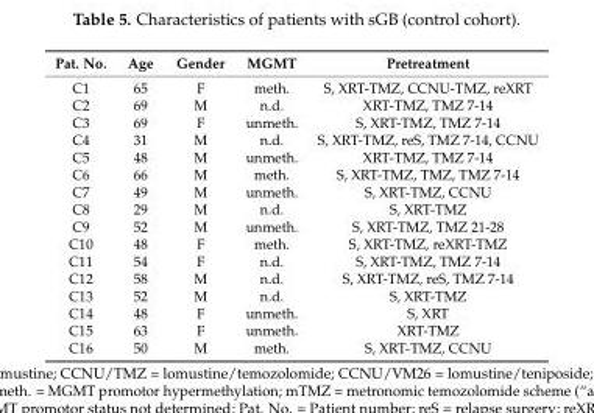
<table><thead><tr><td>Pat. No.</td><td>Age</td><td>Gender</td><td>MGMT</td><td>Pretreatment</td></tr></thead><tbody><tr><td>C1</td><td>65</td><td>F</td><td>meth.</td><td>S, XRT-TMZ, CCNU-TMZ, reXRT</td></tr><tr><td>C2</td><td>69</td><td>M</td><td>n.d.</td><td>XRT-TMZ, TMZ 7-14</td></tr><tr><td>C3</td><td>69</td><td>F</td><td>unmeth.</td><td>S, XRT-TMZ, TMZ 7-14</td></tr><tr><td>C4</td><td>31</td><td>M</td><td>n.d.</td><td>S, XRT-TMZ, reS, TMZ 7-14, CCNU</td></tr><tr><td>C5</td><td>48</td><td>M</td><td>unmeth.</td><td>XRT-TMZ, TMZ 7-14</td></tr><tr><td>C6</td><td>66</td><td>M</td><td>meth.</td><td>S, XRT-TMZ, TMZ, TMZ 7-14</td></tr><tr><td>C7</td><td>49</td><td>M</td><td>unmeth.</td><td>S, XRT-TMZ, CCNU</td></tr><tr><td>C8</td><td>29</td><td>M</td><td>n.d.</td><td>S, XRT-TMZ</td></tr><tr><td>C9</td><td>52</td><td>M</td><td>unmeth.</td><td>S, XRT-TMZ, TMZ 21-28</td></tr><tr><td>C10</td><td>48</td><td>F</td><td>meth.</td><td>S, XRT-TMZ, reXRT-TMZ</td></tr><tr><td>C11</td><td>54</td><td>F</td><td>n.d.</td><td>S, XRT-TMZ, TMZ 7-14</td></tr><tr><td>C12</td><td>58</td><td>M</td><td>n.d.</td><td>S, XRT-TMZ, reS, TMZ 7-14</td></tr><tr><td>C13</td><td>52</td><td>M</td><td>n.d.</td><td>S, XRT-TMZ</td></tr><tr><td>C14</td><td>48</td><td>F</td><td>unmeth.</td><td>S, XRT</td></tr><tr><td>C15</td><td>63</td><td>F</td><td>unmeth.</td><td>XRT-TMZ</td></tr><tr><td>C16</td><td>50</td><td>M</td><td>meth.</td><td>S, XRT-TMZ, CCNU</td></tr></tbody></table>